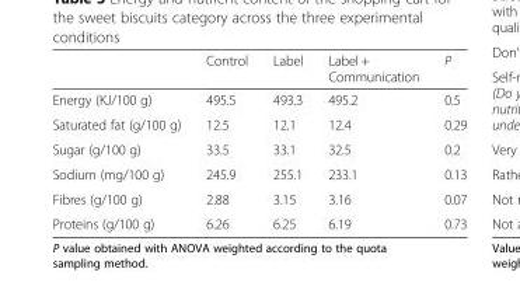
<table><thead><tr><td></td><td>Control</td><td>Label</td><td>Label + Communication</td><td>P</td></tr></thead><tbody><tr><td>Energy (KJ/100 g)</td><td>495.5</td><td>493.3</td><td>495.2</td><td>0.5</td></tr><tr><td>Saturated fat (g/100 g)</td><td>12.5</td><td>12.1</td><td>12.4</td><td>0.29</td></tr><tr><td>Sugar (g/100 g)</td><td>33.5</td><td>33.1</td><td>32.5</td><td>0.2</td></tr><tr><td>Sodium (mg/100 g)</td><td>245.9</td><td>255.1</td><td>233.1</td><td>0.13</td></tr><tr><td>Fibres (g/100 g)</td><td>2.88</td><td>3.15</td><td>3.16</td><td>0.07</td></tr><tr><td>Proteins (g/100 g)</td><td>6.26</td><td>6.25</td><td>6.19</td><td>0.73</td></tr></tbody></table>